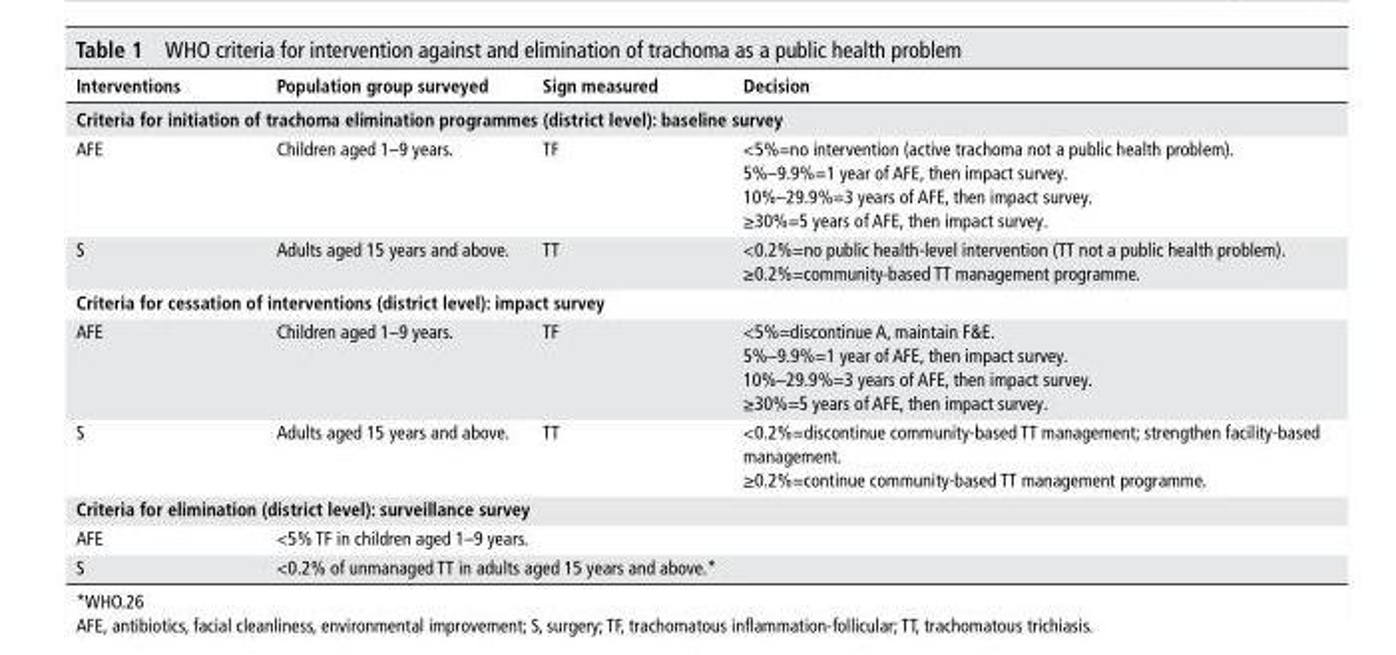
<table><thead><tr><td>interventions</td><td>Population group surveyed</td><td>sign measured</td><td>decision</td></tr></thead><tbody><tr><td colspan="4">Criteria for initiation of trachoma elimination programmes (district level): baseline survey</td></tr><tr><td>AFE</td><td>Children aged 1–9 years.</td><td>TF</td><td>&lt;5%=no intervention (active trachoma not a public health problem). 5%–9.9%=1 year of AFE, then impact survey. 10%–29.9%=3 years of AFE, then impact survey. ≥30%=5 years of AFE, then impact survey.</td></tr><tr><td>S</td><td>Adults aged 15 years and above.</td><td>TT</td><td>&lt;0.2%=no public health-level intervention (TT not a public health problem). ≥0.2%=community-based TT management programme.</td></tr><tr><td colspan="4">Criteria for cessation of interventions (district level): impact survey</td></tr><tr><td>AFE</td><td>Children aged 1–9 years.</td><td>TF</td><td>&lt;5%=discontinue A, maintain F&amp;E. 5%–9.9%=1 year of AFE, then impact survey. 10%–29.9%=3 years of AFE, then impact survey. ≥30%=5 years of AFE, then impact survey.</td></tr><tr><td>S</td><td>Adults aged 15 years and above.</td><td>TT</td><td>&lt;0.2%=discontinue community-based TT management; strengthen facility-based management. ≥0.2%=continue community-based TT management programme.</td></tr><tr><td colspan="4">Criteria for elimination (district level): surveillance survey</td></tr><tr><td>AFE</td><td colspan="3">&lt;5% TF in children aged 1–9 years.</td></tr><tr><td>S</td><td colspan="3">&lt;0.2% of unmanaged TT in adults aged 15 years and above.*</td></tr></tbody></table>